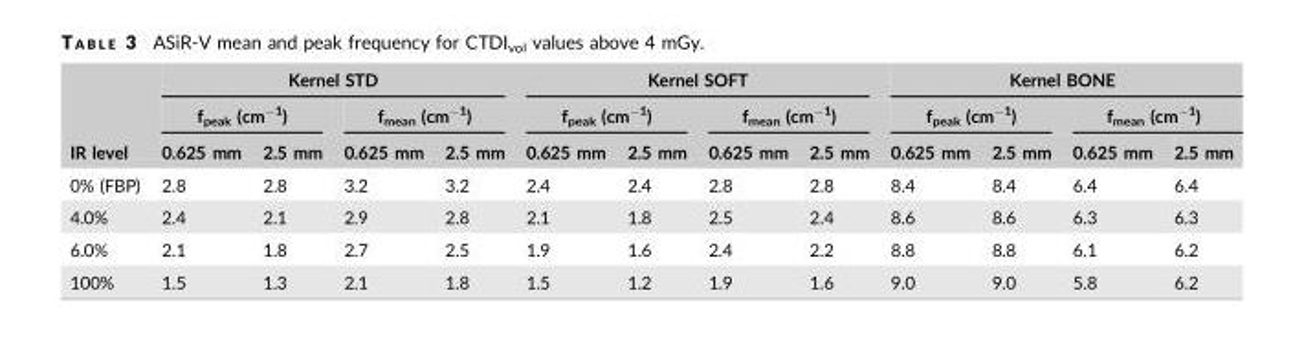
<table><thead><tr><td rowspan="3">IR level</td><td colspan="4">Kernel STD</td><td colspan="4">Kernel SOFT</td><td colspan="4">Kernel BONE</td></tr><tr><td colspan="2">f<sub>peak</sub> (cm<sup>−1</sup>)</td><td colspan="2">f<sub>mean</sub> (cm<sup>−1</sup>)</td><td colspan="2">f<sub>peak</sub> (cm<sup>−1</sup>)</td><td colspan="2">f<sub>mean</sub> (cm<sup>−1</sup>)</td><td colspan="2">f<sub>peak</sub> (cm<sup>−1</sup>)</td><td colspan="2">f<sub>mean</sub> (cm<sup>−1</sup>)</td></tr><tr><td>0.625 mm</td><td>2.5 mm</td><td>0.625 mm</td><td>2.5 mm</td><td>0.625 mm</td><td>2.5 mm</td><td>0.625 mm</td><td>2.5 mm</td><td>0.625 mm</td><td>2.5 mm</td><td>0.625 mm</td><td>2.5 mm</td></tr></thead><tbody><tr><td>0% (FBP)</td><td>2.8</td><td>2.8</td><td>3.2</td><td>3.2</td><td>2.4</td><td>2.4</td><td>2.8</td><td>2.8</td><td>8.4</td><td>8.4</td><td>6.4</td><td>6.4</td></tr><tr><td>4.0%</td><td>2.4</td><td>2.1</td><td>2.9</td><td>2.8</td><td>2.1</td><td>1.8</td><td>2.5</td><td>2.4</td><td>8.6</td><td>8.6</td><td>6.3</td><td>6.3</td></tr><tr><td>6.0%</td><td>2.1</td><td>1.8</td><td>2.7</td><td>2.5</td><td>1.9</td><td>1.6</td><td>2.4</td><td>2.2</td><td>8.8</td><td>8.8</td><td>6.1</td><td>6.2</td></tr><tr><td>100%</td><td>1.5</td><td>1.3</td><td>2.1</td><td>1.8</td><td>1.5</td><td>1.2</td><td>1.9</td><td>1.6</td><td>9.0</td><td>9.0</td><td>5.8</td><td>6.2</td></tr></tbody></table>